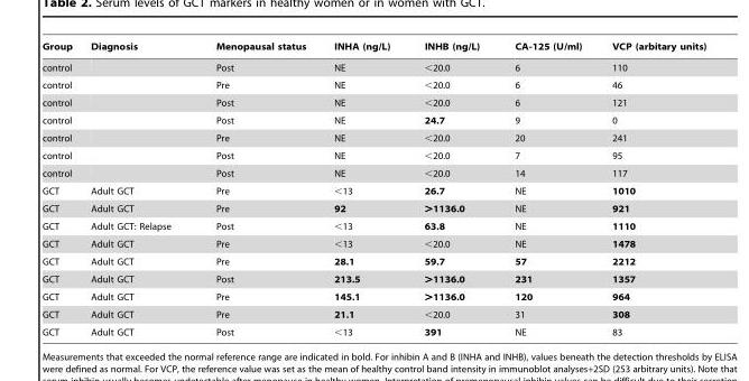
<table><thead><tr><td>Group</td><td>Diagnosis</td><td>Menopausal status</td><td>INHA (ng/L)</td><td>INHB (ng/L)</td><td>CA-125 (U/ml)</td><td>VCP (arbitary units)</td></tr></thead><tbody><tr><td>control</td><td></td><td>Post</td><td>NE</td><td>&lt;20.0</td><td>6</td><td>110</td></tr><tr><td>control</td><td></td><td>Pre</td><td>NE</td><td>&lt;20.0</td><td>6</td><td>46</td></tr><tr><td>control</td><td></td><td>Post</td><td>NE</td><td>&lt;20.0</td><td>6</td><td>121</td></tr><tr><td>control</td><td></td><td>Post</td><td>NE</td><td>24.7</td><td>9</td><td>0</td></tr><tr><td>control</td><td></td><td>Pre</td><td>NE</td><td>&lt;20.0</td><td>20</td><td>241</td></tr><tr><td>control</td><td></td><td>Post</td><td>NE</td><td>&lt;20.0</td><td>7</td><td>95</td></tr><tr><td>control</td><td></td><td>Post</td><td>NE</td><td>&lt;20.0</td><td>14</td><td>117</td></tr><tr><td>GCT</td><td>Adult GCT</td><td>Pre</td><td>&lt;13</td><td>26.7</td><td>NE</td><td>1010</td></tr><tr><td>GCT</td><td>Adult GCT</td><td>Pre</td><td>92</td><td>&gt;1136.0</td><td>NE</td><td>921</td></tr><tr><td>GCT</td><td>Adult GCT: Relapse</td><td>Post</td><td>&lt;13</td><td>63.8</td><td>NE</td><td>1110</td></tr><tr><td>GCT</td><td>Adult GCT</td><td>Pre</td><td>&lt;13</td><td>&lt;20.0</td><td>NE</td><td>1478</td></tr><tr><td>GCT</td><td>Adult GCT</td><td>Pre</td><td>28.1</td><td>59.7</td><td>57</td><td>2212</td></tr><tr><td>GCT</td><td>Adult GCT</td><td>Post</td><td>213.5</td><td>&gt;1136.0</td><td>231</td><td>1357</td></tr><tr><td>GCT</td><td>Adult GCT</td><td>Pre</td><td>145.1</td><td>&gt;1136.0</td><td>120</td><td>964</td></tr><tr><td>GCT</td><td>Adult GCT</td><td>Pre</td><td>21.1</td><td>&lt;20.0</td><td>31</td><td>308</td></tr><tr><td>GCT</td><td>Adult GCT</td><td>Post</td><td>&lt;13</td><td>391</td><td>NE</td><td>83</td></tr></tbody></table>